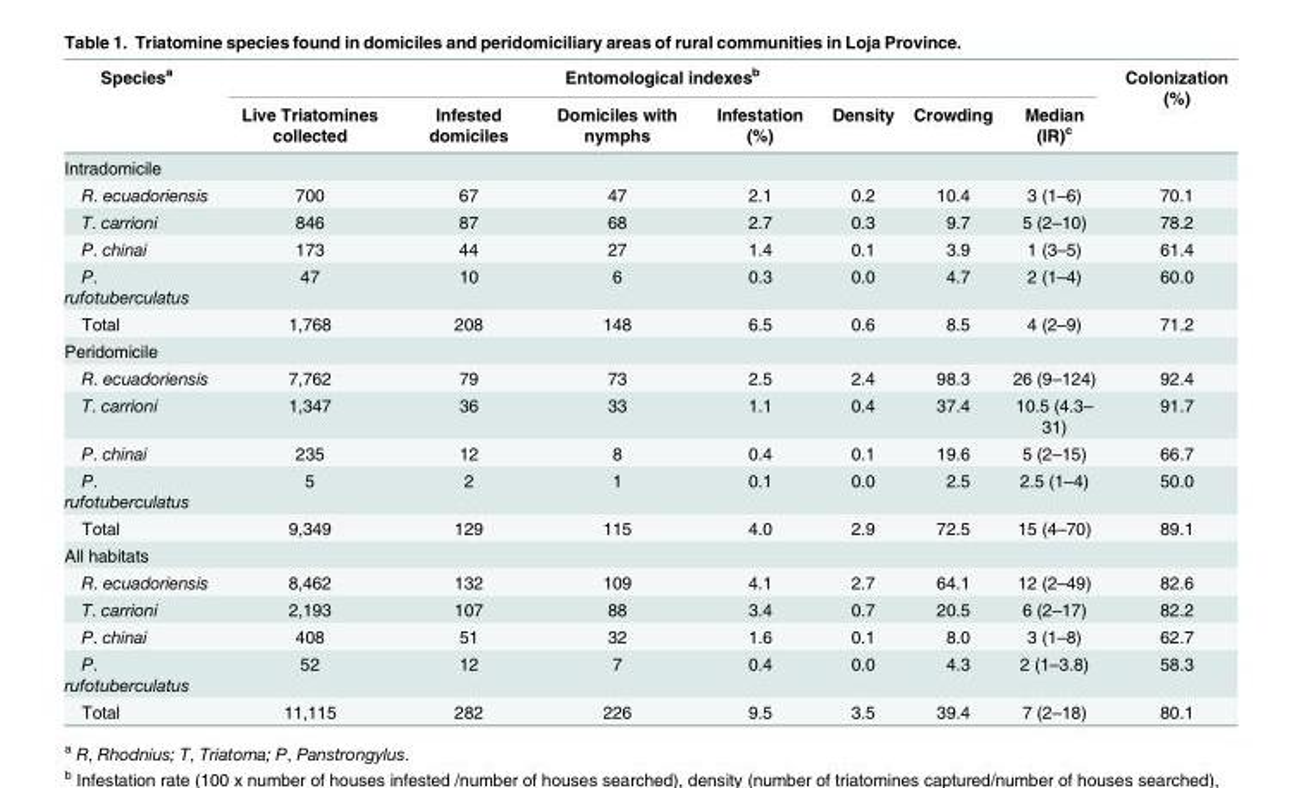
<table><thead><tr><td rowspan="2">Species<sup>a</sup></td><td colspan="7">Entomological indexes<sup>b</sup></td><td rowspan="2">Colonization (%)</td></tr><tr><td>Live Triatomines collected</td><td>Infested domiciles</td><td>Domiciles with nymphs</td><td>Infestation (%)</td><td>Density</td><td>Crowding</td><td>Median (IR)<sup>c</sup></td></tr></thead><tbody><tr><td colspan="9">Intradomicile</td></tr><tr><td>R. ecuadoriensis</td><td>700</td><td>67</td><td>47</td><td>2.1</td><td>0.2</td><td>10.4</td><td>3 (1–6)</td><td>70.1</td></tr><tr><td>T. carrioni</td><td>846</td><td>87</td><td>68</td><td>2.7</td><td>0.3</td><td>9.7</td><td>5 (2–10)</td><td>78.2</td></tr><tr><td>P. chinai</td><td>173</td><td>44</td><td>27</td><td>1.4</td><td>0.1</td><td>3.9</td><td>1 (3–5)</td><td>61.4</td></tr><tr><td>P. rufotuberculatus</td><td>47</td><td>10</td><td>6</td><td>0.3</td><td>0.0</td><td>4.7</td><td>2 (1–4)</td><td>60.0</td></tr><tr><td>Total</td><td>1,768</td><td>208</td><td>148</td><td>6.5</td><td>0.6</td><td>8.5</td><td>4 (2–9)</td><td>71.2</td></tr><tr><td colspan="9">Peridomicile</td></tr><tr><td>R. ecuadoriensis</td><td>7,762</td><td>79</td><td>73</td><td>2.5</td><td>2.4</td><td>98.3</td><td>26 (9–124)</td><td>92.4</td></tr><tr><td>T. carrioni</td><td>1,347</td><td>36</td><td>33</td><td>1.1</td><td>0.4</td><td>37.4</td><td>10.5 (4.3– 31)</td><td>91.7</td></tr><tr><td>P. chinai</td><td>235</td><td>12</td><td>8</td><td>0.4</td><td>0.1</td><td>19.6</td><td>5 (2–15)</td><td>66.7</td></tr><tr><td>P. rufotuberculatus</td><td>5</td><td>2</td><td>1</td><td>0.1</td><td>0.0</td><td>2.5</td><td>2.5 (1–4)</td><td>50.0</td></tr><tr><td>Total</td><td>9,349</td><td>129</td><td>115</td><td>4.0</td><td>2.9</td><td>72.5</td><td>15 (4–70)</td><td>89.1</td></tr><tr><td colspan="9">All habitats</td></tr><tr><td>R. ecuadoriensis</td><td>8,462</td><td>132</td><td>109</td><td>4.1</td><td>2.7</td><td>64.1</td><td>12 (2–49)</td><td>82.6</td></tr><tr><td>T. carrioni</td><td>2,193</td><td>107</td><td>88</td><td>3.4</td><td>0.7</td><td>20.5</td><td>6 (2–17)</td><td>82.2</td></tr><tr><td>P. chinai</td><td>408</td><td>51</td><td>32</td><td>1.6</td><td>0.1</td><td>8.0</td><td>3 (1–8)</td><td>62.7</td></tr><tr><td>P. rufotuberculatus</td><td>52</td><td>12</td><td>7</td><td>0.4</td><td>0.0</td><td>4.3</td><td>2 (1–3.8)</td><td>58.3</td></tr><tr><td>Total</td><td>11,115</td><td>282</td><td>226</td><td>9.5</td><td>3.5</td><td>39.4</td><td>7 (2–18)</td><td>80.1</td></tr></tbody></table>